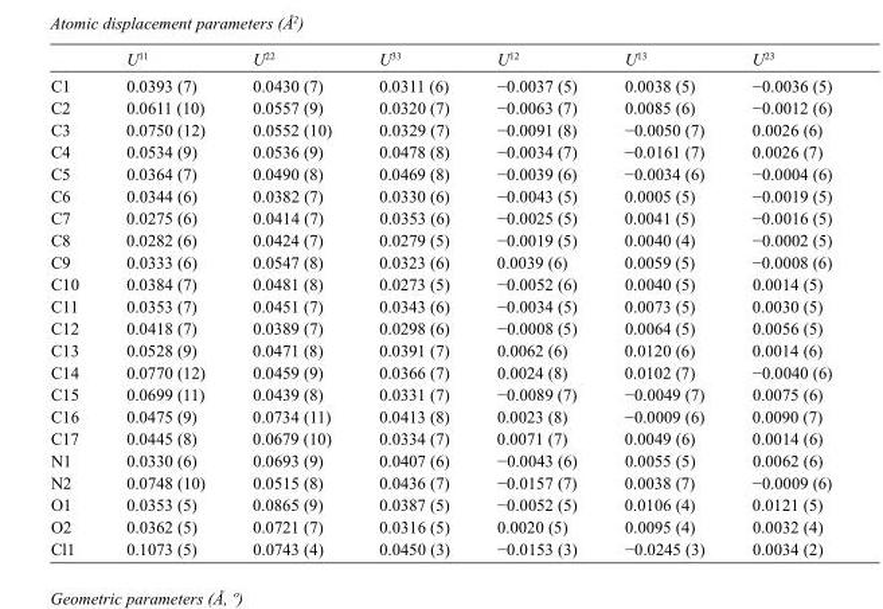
<table><thead><tr><td></td><td>U<sup>11</sup></td><td>U<sup>22</sup></td><td>U<sup>33</sup></td><td>U<sup>12</sup></td><td>U<sup>13</sup></td><td>U<sup>23</sup></td></tr></thead><tbody><tr><td>C1</td><td>0.0393 (7)</td><td>0.0430 (7)</td><td>0.0311 (6)</td><td>−0.0037 (5)</td><td>0.0038 (5)</td><td>−0.0036 (5)</td></tr><tr><td>C2</td><td>0.0611 (10)</td><td>0.0557 (9)</td><td>0.0320 (7)</td><td>−0.0063 (7)</td><td>0.0085 (6)</td><td>−0.0012 (6)</td></tr><tr><td>C3</td><td>0.0750 (12)</td><td>0.0552 (10)</td><td>0.0329 (7)</td><td>−0.0091 (8)</td><td>−0.0050 (7)</td><td>0.0026 (6)</td></tr><tr><td>C4</td><td>0.0534 (9)</td><td>0.0536 (9)</td><td>0.0478 (8)</td><td>−0.0034 (7)</td><td>−0.0161 (7)</td><td>0.0026 (7)</td></tr><tr><td>C5</td><td>0.0364 (7)</td><td>0.0490 (8)</td><td>0.0469 (8)</td><td>−0.0039 (6)</td><td>−0.0034 (6)</td><td>−0.0004 (6)</td></tr><tr><td>C6</td><td>0.0344 (6)</td><td>0.0382 (7)</td><td>0.0330 (6)</td><td>−0.0043 (5)</td><td>0.0005 (5)</td><td>−0.0019 (5)</td></tr><tr><td>C7</td><td>0.0275 (6)</td><td>0.0414 (7)</td><td>0.0353 (6)</td><td>−0.0025 (5)</td><td>0.0041 (5)</td><td>−0.0016 (5)</td></tr><tr><td>C8</td><td>0.0282 (6)</td><td>0.0424 (7)</td><td>0.0279 (5)</td><td>−0.0019 (5)</td><td>0.0040 (4)</td><td>−0.0002 (5)</td></tr><tr><td>C9</td><td>0.0333 (6)</td><td>0.0547 (8)</td><td>0.0323 (6)</td><td>0.0039 (6)</td><td>0.0059 (5)</td><td>−0.0008 (6)</td></tr><tr><td>C10</td><td>0.0384 (7)</td><td>0.0481 (8)</td><td>0.0273 (5)</td><td>−0.0052 (6)</td><td>0.0040 (5)</td><td>0.0014 (5)</td></tr><tr><td>C11</td><td>0.0353 (7)</td><td>0.0451 (7)</td><td>0.0343 (6)</td><td>−0.0034 (5)</td><td>0.0073 (5)</td><td>0.0030 (5)</td></tr><tr><td>C12</td><td>0.0418 (7)</td><td>0.0389 (7)</td><td>0.0298 (6)</td><td>−0.0008 (5)</td><td>0.0064 (5)</td><td>0.0056 (5)</td></tr><tr><td>C13</td><td>0.0528 (9)</td><td>0.0471 (8)</td><td>0.0391 (7)</td><td>0.0062 (6)</td><td>0.0120 (6)</td><td>0.0014 (6)</td></tr><tr><td>C14</td><td>0.0770 (12)</td><td>0.0459 (9)</td><td>0.0366 (7)</td><td>0.0024 (8)</td><td>0.0102 (7)</td><td>−0.0040 (6)</td></tr><tr><td>C15</td><td>0.0699 (11)</td><td>0.0439 (8)</td><td>0.0331 (7)</td><td>−0.0089 (7)</td><td>−0.0049 (7)</td><td>0.0075 (6)</td></tr><tr><td>C16</td><td>0.0475 (9)</td><td>0.0734 (11)</td><td>0.0413 (8)</td><td>0.0023 (8)</td><td>−0.0009 (6)</td><td>0.0090 (7)</td></tr><tr><td>C17</td><td>0.0445 (8)</td><td>0.0679 (10)</td><td>0.0334 (7)</td><td>0.0071 (7)</td><td>0.0049 (6)</td><td>0.0014 (6)</td></tr><tr><td>N1</td><td>0.0330 (6)</td><td>0.0693 (9)</td><td>0.0407 (6)</td><td>−0.0043 (6)</td><td>0.0055 (5)</td><td>0.0062 (6)</td></tr><tr><td>N2</td><td>0.0748 (10)</td><td>0.0515 (8)</td><td>0.0436 (7)</td><td>−0.0157 (7)</td><td>0.0038 (7)</td><td>−0.0009 (6)</td></tr><tr><td>O1</td><td>0.0353 (5)</td><td>0.0865 (9)</td><td>0.0387 (5)</td><td>−0.0052 (5)</td><td>0.0106 (4)</td><td>0.0121 (5)</td></tr><tr><td>O2</td><td>0.0362 (5)</td><td>0.0721 (7)</td><td>0.0316 (5)</td><td>0.0020 (5)</td><td>0.0095 (4)</td><td>0.0032 (4)</td></tr><tr><td>Cl1</td><td>0.1073 (5)</td><td>0.0743 (4)</td><td>0.0450 (3)</td><td>−0.0153 (3)</td><td>−0.0245 (3)</td><td>0.0034 (2)</td></tr></tbody></table>